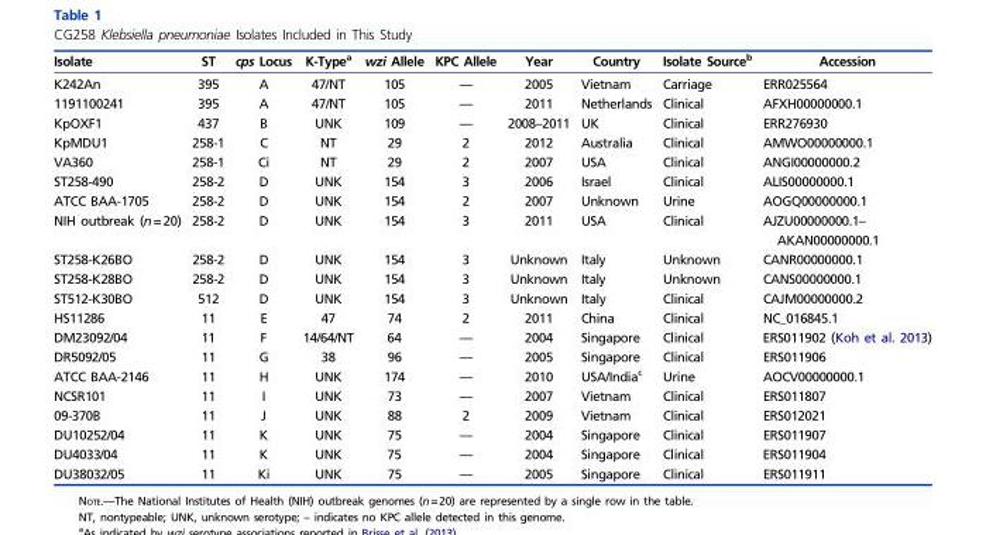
<table><thead><tr><td>Isolate</td><td>ST</td><td>cps Locus</td><td>K-Type<sup>a</sup></td><td>wzi Allele</td><td>KPC Allele</td><td>Year</td><td>Country</td><td>Isolate Source<sup>b</sup></td><td>Accession</td></tr></thead><tbody><tr><td>K242An</td><td>395</td><td>A</td><td>47/NT</td><td>105</td><td>—</td><td>2005</td><td>Vietnam</td><td>Carriage</td><td>ERR025564</td></tr><tr><td>1191100241</td><td>395</td><td>A</td><td>47/NT</td><td>105</td><td>—</td><td>2011</td><td>Netherlands</td><td>Clinical</td><td>AFXH00000000.1</td></tr><tr><td>KpOXF1</td><td>437</td><td>B</td><td>UNK</td><td>109</td><td>—</td><td>2008–2011</td><td>UK</td><td>Clinical</td><td>ERR276930</td></tr><tr><td>KpMDU1</td><td>258-1</td><td>C</td><td>NT</td><td>29</td><td>2</td><td>2012</td><td>Australia</td><td>Clinical</td><td>AMWO00000000.1</td></tr><tr><td>VA360</td><td>258-1</td><td>Ci</td><td>NT</td><td>29</td><td>2</td><td>2007</td><td>USA</td><td>Clinical</td><td>ANGI00000000.2</td></tr><tr><td>ST258-490</td><td>258-2</td><td>D</td><td>UNK</td><td>154</td><td>3</td><td>2006</td><td>Israel</td><td>Clinical</td><td>ALIS00000000.1</td></tr><tr><td>ATCC BAA-1705</td><td>258-2</td><td>D</td><td>UNK</td><td>154</td><td>2</td><td>2007</td><td>Unknown</td><td>Urine</td><td>AOGQ00000000.1</td></tr><tr><td>NIH outbreak (n=20)</td><td>258-2</td><td>D</td><td>UNK</td><td>154</td><td>3</td><td>2011</td><td>USA</td><td>Clinical</td><td>AJZU00000000.1– AKAN00000000.1</td></tr><tr><td>ST258-K26BO</td><td>258-2</td><td>D</td><td>UNK</td><td>154</td><td>3</td><td>Unknown</td><td>Italy</td><td>Unknown</td><td>CANR00000000.1</td></tr><tr><td>ST258-K28BO</td><td>258-2</td><td>D</td><td>UNK</td><td>154</td><td>3</td><td>Unknown</td><td>Italy</td><td>Unknown</td><td>CANS00000000.1</td></tr><tr><td>ST512-K30BO</td><td>512</td><td>D</td><td>UNK</td><td>154</td><td>3</td><td>Unknown</td><td>Italy</td><td>Clinical</td><td>CAJM00000000.2</td></tr><tr><td>HS11286</td><td>11</td><td>E</td><td>47</td><td>74</td><td>2</td><td>2011</td><td>China</td><td>Clinical</td><td>NC_016845.1</td></tr><tr><td>DM23092/04</td><td>11</td><td>F</td><td>14/64/NT</td><td>64</td><td>—</td><td>2004</td><td>Singapore</td><td>Clinical</td><td>ERS011902 (Koh et al. 2013)</td></tr><tr><td>DR5092/05</td><td>11</td><td>G</td><td>38</td><td>96</td><td>—</td><td>2005</td><td>Singapore</td><td>Clinical</td><td>ERS011906</td></tr><tr><td>ATCC BAA-2146</td><td>11</td><td>H</td><td>UNK</td><td>174</td><td>—</td><td>2010</td><td>USA/India<sup>c</sup></td><td>Urine</td><td>AOCV00000000.1</td></tr><tr><td>NCSR101</td><td>11</td><td>I</td><td>UNK</td><td>73</td><td>—</td><td>2007</td><td>Vietnam</td><td>Clinical</td><td>ERS011807</td></tr><tr><td>09-370B</td><td>11</td><td>J</td><td>UNK</td><td>88</td><td>2</td><td>2009</td><td>Vietnam</td><td>Clinical</td><td>ERS012021</td></tr><tr><td>DU10252/04</td><td>11</td><td>K</td><td>UNK</td><td>75</td><td>—</td><td>2004</td><td>Singapore</td><td>Clinical</td><td>ERS011907</td></tr><tr><td>DU4033/04</td><td>11</td><td>K</td><td>UNK</td><td>75</td><td>—</td><td>2004</td><td>Singapore</td><td>Clinical</td><td>ERS011904</td></tr><tr><td>DU38032/05</td><td>11</td><td>Ki</td><td>UNK</td><td>75</td><td>—</td><td>2005</td><td>Singapore</td><td>Clinical</td><td>ERS011911</td></tr></tbody></table>